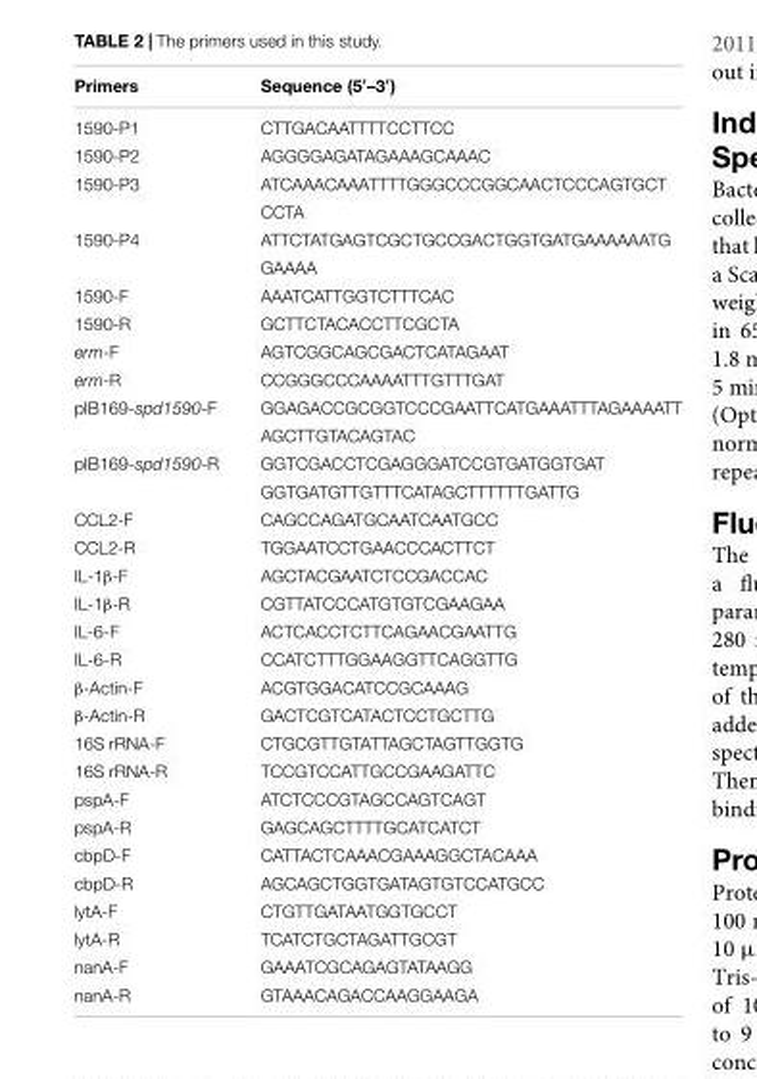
<table><thead><tr><td>Primers</td><td>Sequence (5′–3′)</td></tr></thead><tbody><tr><td>1590-P1</td><td>CTTGACAATTTTCCTTCC</td></tr><tr><td>1590-P2</td><td>AGGGGAGATAGAAAGCAAAC</td></tr><tr><td rowspan="2">1590-P3</td><td>ATCAAACAAATTTTGGGCCCGGCAACTCCCAGTGCT</td></tr><tr><td>CCTA</td></tr><tr><td rowspan="2">1590-P4</td><td>ATTCTATGAGTCGCTGCCGACTGGTGATGAAAAAATG</td></tr><tr><td>GAAAA</td></tr><tr><td>1590-F</td><td>AAATCATTGGTCTTTCAC</td></tr><tr><td>1590-R</td><td>GCTTCTACACCTTCGCTA</td></tr><tr><td>erm-F</td><td>AGTCGGCAGCGACTCATAGAAT</td></tr><tr><td>erm-R</td><td>CCGGGCCCAAAATTTGTTTGAT</td></tr><tr><td rowspan="2">pIB169-spd1590-F</td><td>GGAGACCGCGGTCCCGAATTCATGAAATTTAGAAAATT</td></tr><tr><td>AGCTTGTACAGTAC</td></tr><tr><td rowspan="2">pIB169-spd1590-R</td><td>GGTCGACCTCGAGGGATCCGTGATGGTGAT</td></tr><tr><td>GGTGATGTTGTTTCATAGCTTTTTTGATTG</td></tr><tr><td>CCL2-F</td><td>CAGCCAGATGCAATCAATGCC</td></tr><tr><td>CCL2-R</td><td>TGGAATCCTGAACCCACTTCT</td></tr><tr><td>IL-1β-F</td><td>AGCTACGAATCTCCGACCAC</td></tr><tr><td>IL-1β-R</td><td>CGTTATCCCATGTGTCGAAGAA</td></tr><tr><td>IL-6-F</td><td>ACTCACCTCTTCAGAACGAATTG</td></tr><tr><td>IL-6-R</td><td>CCATCTTTGGAAGGTTCAGGTTG</td></tr><tr><td>β-Actin-F</td><td>ACGTGGACATCCGCAAAG</td></tr><tr><td>β-Actin-R</td><td>GACTCGTCATACTCCTGCTTG</td></tr><tr><td>16S rRNA-F</td><td>CTGCGTTGTATTAGCTAGTTGGTG</td></tr><tr><td>16S rRNA-R</td><td>TCCGTCCATTGCCGAAGATTC</td></tr><tr><td>pspA-F</td><td>ATCTCCCGTAGCCAGTCAGT</td></tr><tr><td>pspA-R</td><td>GAGCAGCTTTTGCATCATCT</td></tr><tr><td>cbpD-F</td><td>CATTACTCAAACGAAAGGCTACAAA</td></tr><tr><td>cbpD-R</td><td>AGCAGCTGGTGATAGTGTCCATGCC</td></tr><tr><td>lytA-F</td><td>CTGTTGATAATGGTGCCT</td></tr><tr><td>lytA-R</td><td>TCATCTGCTAGATTGCGT</td></tr><tr><td>nanA-F</td><td>GAAATCGCAGAGTATAAGG</td></tr><tr><td>nanA-R</td><td>GTAAACAGACCAAGGAAGA</td></tr></tbody></table>